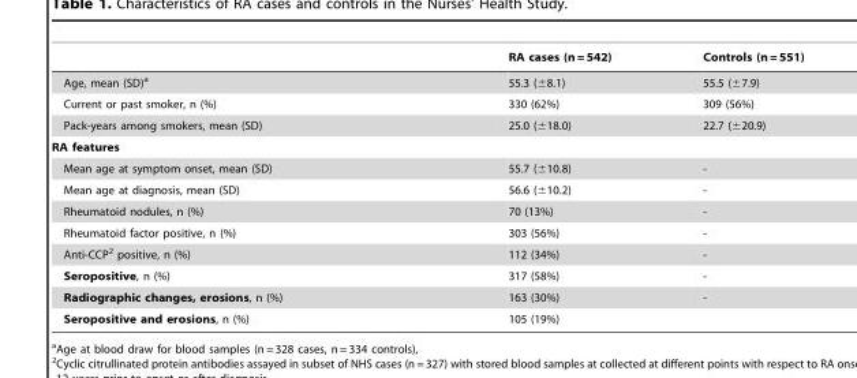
<table><thead><tr><td></td><td>RA cases (n = 542)</td><td>Controls (n = 551)</td></tr></thead><tbody><tr><td>Age, mean (SD)<sup>a</sup></td><td>55.3 (±8.1)</td><td>55.5 (±7.9)</td></tr><tr><td>Current or past smoker, n (%)</td><td>330 (62%)</td><td>309 (56%)</td></tr><tr><td>Pack-years among smokers, mean (SD)</td><td>25.0 (±18.0)</td><td>22.7 (±20.9)</td></tr><tr><td colspan="3">RA features</td></tr><tr><td>Mean age at symptom onset, mean (SD)</td><td>55.7 (±10.8)</td><td>-</td></tr><tr><td>Mean age at diagnosis, mean (SD)</td><td>56.6 (±10.2)</td><td>-</td></tr><tr><td>Rheumatoid nodules, n (%)</td><td>70 (13%)</td><td>-</td></tr><tr><td>Rheumatoid factor positive, n (%)</td><td>303 (56%)</td><td>-</td></tr><tr><td>Anti-CCP<sup>2</sup> positive, n (%)</td><td>112 (34%)</td><td>-</td></tr><tr><td>Seropositive, n (%)</td><td>317 (58%)</td><td>-</td></tr><tr><td>Radiographic changes, erosions, n (%)</td><td>163 (30%)</td><td>-</td></tr><tr><td>Seropositive and erosions, n (%)</td><td>105 (19%)</td><td></td></tr></tbody></table>